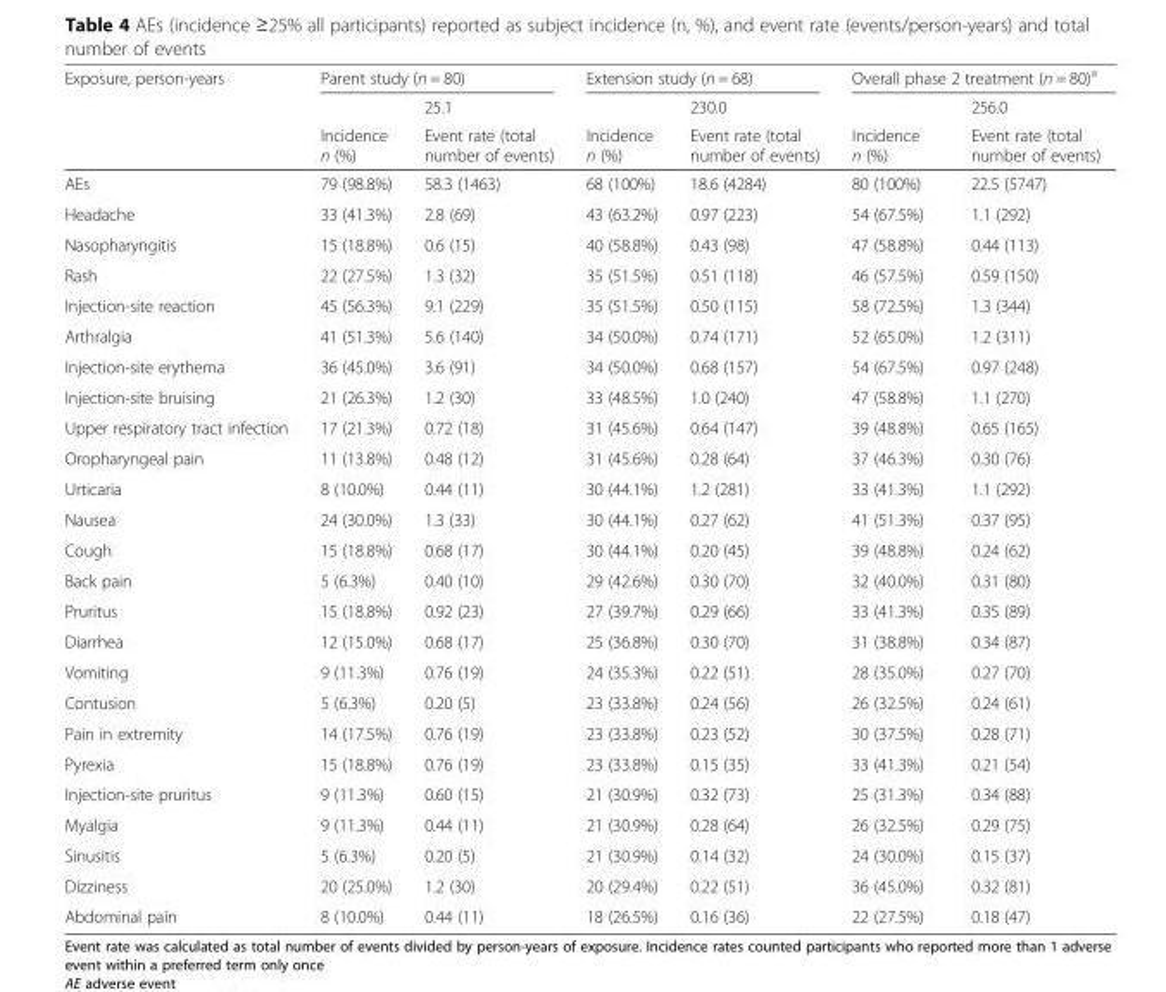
<table><thead><tr><td rowspan="3">Exposure, person-years</td><td colspan="2">Parent study (n = 80)</td><td colspan="2">Extension study (n = 68)</td><td colspan="2">Overall phase 2 treatment (n = 80)<sup>a</sup></td></tr><tr><td rowspan="2">Incidence n (%)</td><td rowspan="2">25.1 Event rate (total number of events)</td><td rowspan="2">Incidence n (%)</td><td rowspan="2">230.0 Event rate (total number of events)</td><td rowspan="2">Incidence n (%)</td><td rowspan="2">256.0 Event rate (total number of events)</td></tr><tr></tr></thead><tbody><tr><td>AEs</td><td>79 (98.8%)</td><td>58.3 (1463)</td><td>68 (100%)</td><td>18.6 (4284)</td><td>80 (100%)</td><td>22.5 (5747)</td></tr><tr><td>Headache</td><td>33 (41.3%)</td><td>2.8 (69)</td><td>43 (63.2%)</td><td>0.97 (223)</td><td>54 (67.5%)</td><td>1.1 (292)</td></tr><tr><td>Nasopharyngitis</td><td>15 (18.8%)</td><td>0.6 (15)</td><td>40 (58.8%)</td><td>0.43 (98)</td><td>47 (58.8%)</td><td>0.44 (113)</td></tr><tr><td>Rash</td><td>22 (27.5%)</td><td>1.3 (32)</td><td>35 (51.5%)</td><td>0.51 (118)</td><td>46 (57.5%)</td><td>0.59 (150)</td></tr><tr><td>Injection-site reaction</td><td>45 (56.3%)</td><td>9.1 (229)</td><td>35 (51.5%)</td><td>0.50 (115)</td><td>58 (72.5%)</td><td>1.3 (344)</td></tr><tr><td>Arthralgia</td><td>41 (51.3%)</td><td>5.6 (140)</td><td>34 (50.0%)</td><td>0.74 (171)</td><td>52 (65.0%)</td><td>1.2 (311)</td></tr><tr><td>Injection-site erythema</td><td>36 (45.0%)</td><td>3.6 (91)</td><td>34 (50.0%)</td><td>0.68 (157)</td><td>54 (67.5%)</td><td>0.97 (248)</td></tr><tr><td>Injection-site bruising</td><td>21 (26.3%)</td><td>1.2 (30)</td><td>33 (48.5%)</td><td>1.0 (240)</td><td>47 (58.8%)</td><td>1.1 (270)</td></tr><tr><td>Upper respiratory tract infection</td><td>17 (21.3%)</td><td>0.72 (18)</td><td>31 (45.6%)</td><td>0.64 (147)</td><td>39 (48.8%)</td><td>0.65 (165)</td></tr><tr><td>Oropharyngeal pain</td><td>11 (13.8%)</td><td>0.48 (12)</td><td>31 (45.6%)</td><td>0.28 (64)</td><td>37 (46.3%)</td><td>0.30 (76)</td></tr><tr><td>Urticaria</td><td>8 (10.0%)</td><td>0.44 (11)</td><td>30 (44.1%)</td><td>1.2 (281)</td><td>33 (41.3%)</td><td>1.1 (292)</td></tr><tr><td>Nausea</td><td>24 (30.0%)</td><td>1.3 (33)</td><td>30 (44.1%)</td><td>0.27 (62)</td><td>41 (51.3%)</td><td>0.37 (95)</td></tr><tr><td>Cough</td><td>15 (18.8%)</td><td>0.68 (17)</td><td>30 (44.1%)</td><td>0.20 (45)</td><td>39 (48.8%)</td><td>0.24 (62)</td></tr><tr><td>Back pain</td><td>5 (6.3%)</td><td>0.40 (10)</td><td>29 (42.6%)</td><td>0.30 (70)</td><td>32 (40.0%)</td><td>0.31 (80)</td></tr><tr><td>Pruritus</td><td>15 (18.8%)</td><td>0.92 (23)</td><td>27 (39.7%)</td><td>0.29 (66)</td><td>33 (41.3%)</td><td>0.35 (89)</td></tr><tr><td>Diarrhea</td><td>12 (15.0%)</td><td>0.68 (17)</td><td>25 (36.8%)</td><td>0.30 (70)</td><td>31 (38.8%)</td><td>0.34 (87)</td></tr><tr><td>Vomiting</td><td>9 (11.3%)</td><td>0.76 (19)</td><td>24 (35.3%)</td><td>0.22 (51)</td><td>28 (35.0%)</td><td>0.27 (70)</td></tr><tr><td>Contusion</td><td>5 (6.3%)</td><td>0.20 (5)</td><td>23 (33.8%)</td><td>0.24 (56)</td><td>26 (32.5%)</td><td>0.24 (61)</td></tr><tr><td>Pain in extremity</td><td>14 (17.5%)</td><td>0.76 (19)</td><td>23 (33.8%)</td><td>0.23 (52)</td><td>30 (37.5%)</td><td>0.28 (71)</td></tr><tr><td>Pyrexia</td><td>15 (18.8%)</td><td>0.76 (19)</td><td>23 (33.8%)</td><td>0.15 (35)</td><td>33 (41.3%)</td><td>0.21 (54)</td></tr><tr><td>Injection-site pruritus</td><td>9 (11.3%)</td><td>0.60 (15)</td><td>21 (30.9%)</td><td>0.32 (73)</td><td>25 (31.3%)</td><td>0.34 (88)</td></tr><tr><td>Myalgia</td><td>9 (11.3%)</td><td>0.44 (11)</td><td>21 (30.9%)</td><td>0.28 (64)</td><td>26 (32.5%)</td><td>0.29 (75)</td></tr><tr><td>Sinusitis</td><td>5 (6.3%)</td><td>0.20 (5)</td><td>21 (30.9%)</td><td>0.14 (32)</td><td>24 (30.0%)</td><td>0.15 (37)</td></tr><tr><td>Dizziness</td><td>20 (25.0%)</td><td>1.2 (30)</td><td>20 (29.4%)</td><td>0.22 (51)</td><td>36 (45.0%)</td><td>0.32 (81)</td></tr><tr><td>Abdominal pain</td><td>8 (10.0%)</td><td>0.44 (11)</td><td>18 (26.5%)</td><td>0.16 (36)</td><td>22 (27.5%)</td><td>0.18 (47)</td></tr></tbody></table>